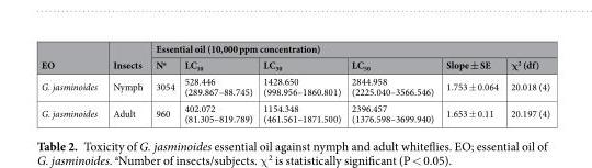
<table><thead><tr><td rowspan="2">EO</td><td rowspan="2">Insects</td><td colspan="6">Essential oil (10,000 ppm concentration)</td></tr><tr><td>N<sup>a</sup></td><td>LC<sub>10</sub></td><td>LC<sub>30</sub></td><td>LC<sub>50</sub></td><td>Slope ± SE</td><td>χ<sup>2</sup> (df)</td></tr></thead><tbody><tr><td>G. jasminoides</td><td>Nymph</td><td>3054</td><td>528.446 (289.867–88.745)</td><td>1428.650 (998.956–1860.801)</td><td>2844.958 (2225.040–3566.546)</td><td>1.753 ± 0.064</td><td>20.018 (4)</td></tr><tr><td>G. jasminoides</td><td>Adult</td><td>960</td><td>402.072 (81.305–819.789)</td><td>1154.348 (461.561–1871.500)</td><td>2396.457 (1376.598–3699.940)</td><td>1.653 ± 0.11</td><td>20.197 (4)</td></tr></tbody></table>